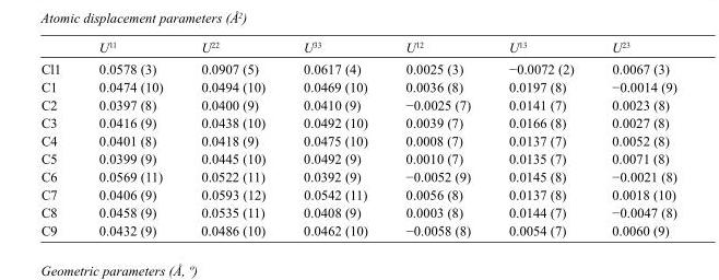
<table><thead><tr><td></td><td>U<sup>11</sup></td><td>U<sup>22</sup></td><td>U<sup>33</sup></td><td>U<sup>12</sup></td><td>U<sup>13</sup></td><td>U<sup>23</sup></td></tr></thead><tbody><tr><td>Cl1</td><td>0.0578 (3)</td><td>0.0907 (5)</td><td>0.0617 (4)</td><td>0.0025 (3)</td><td>−0.0072 (2)</td><td>0.0067 (3)</td></tr><tr><td>C1</td><td>0.0474 (10)</td><td>0.0494 (10)</td><td>0.0469 (10)</td><td>0.0036 (8)</td><td>0.0197 (8)</td><td>−0.0014 (9)</td></tr><tr><td>C2</td><td>0.0397 (8)</td><td>0.0400 (9)</td><td>0.0410 (9)</td><td>−0.0025 (7)</td><td>0.0141 (7)</td><td>0.0023 (8)</td></tr><tr><td>C3</td><td>0.0416 (9)</td><td>0.0438 (10)</td><td>0.0492 (10)</td><td>0.0039 (7)</td><td>0.0166 (8)</td><td>0.0027 (8)</td></tr><tr><td>C4</td><td>0.0401 (8)</td><td>0.0418 (9)</td><td>0.0475 (10)</td><td>0.0008 (7)</td><td>0.0137 (7)</td><td>0.0052 (8)</td></tr><tr><td>C5</td><td>0.0399 (9)</td><td>0.0445 (10)</td><td>0.0492 (9)</td><td>0.0010 (7)</td><td>0.0135 (7)</td><td>0.0071 (8)</td></tr><tr><td>C6</td><td>0.0569 (11)</td><td>0.0522 (11)</td><td>0.0392 (9)</td><td>−0.0052 (9)</td><td>0.0145 (8)</td><td>−0.0021 (8)</td></tr><tr><td>C7</td><td>0.0406 (9)</td><td>0.0593 (12)</td><td>0.0542 (11)</td><td>0.0056 (8)</td><td>0.0137 (8)</td><td>0.0018 (10)</td></tr><tr><td>C8</td><td>0.0458 (9)</td><td>0.0535 (11)</td><td>0.0408 (9)</td><td>0.0003 (8)</td><td>0.0144 (7)</td><td>−0.0047 (8)</td></tr><tr><td>C9</td><td>0.0432 (9)</td><td>0.0486 (10)</td><td>0.0462 (10)</td><td>−0.0058 (8)</td><td>0.0054 (7)</td><td>0.0060 (9)</td></tr></tbody></table>